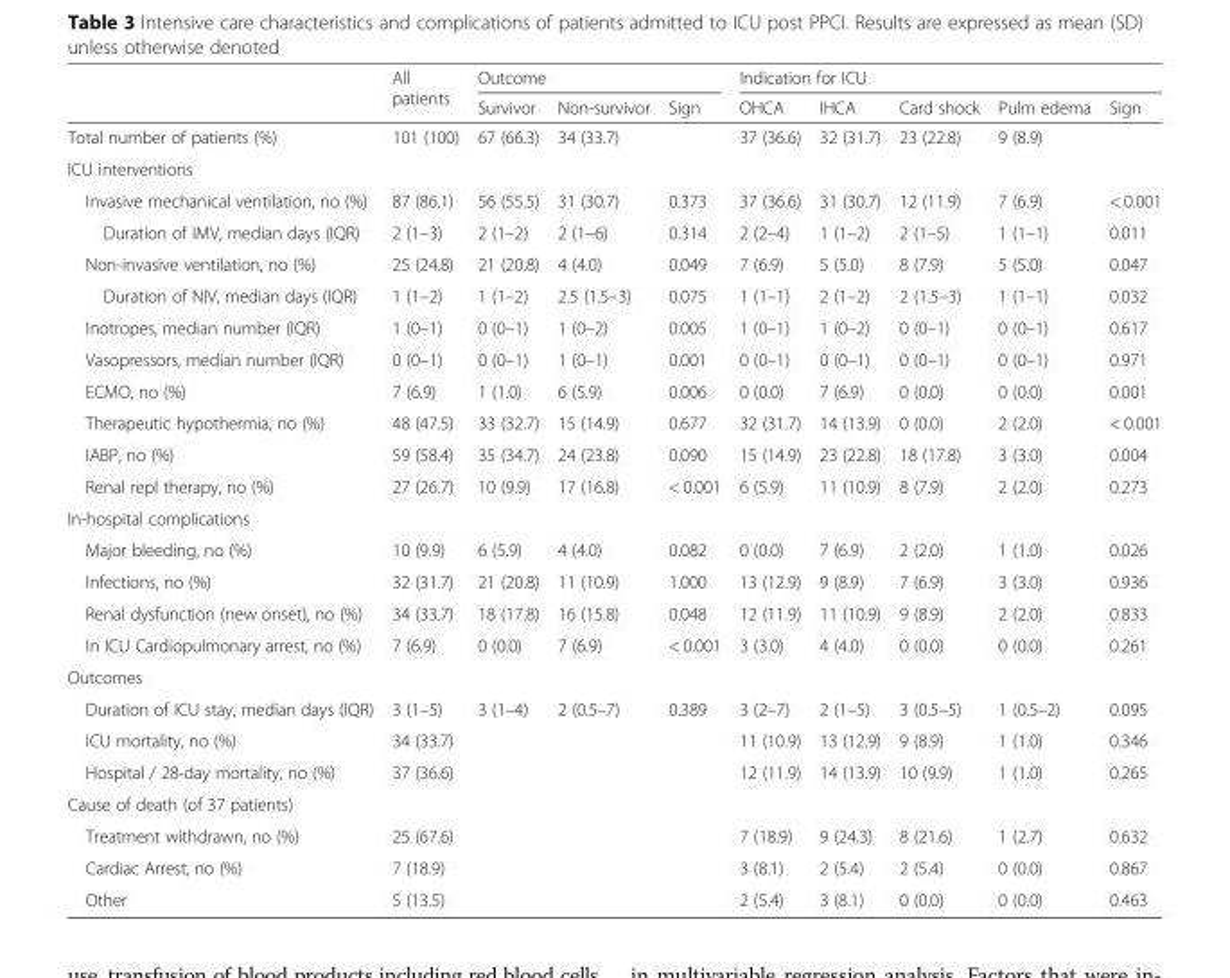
<table><thead><tr><td rowspan="2"></td><td rowspan="2">All patients</td><td colspan="3">Outcome</td><td colspan="5">Indication for ICU</td></tr><tr><td>Survivor</td><td>Non-survivor</td><td>Sign</td><td>OHCA</td><td>IHCA</td><td>Card shock</td><td>Pulm edema</td><td>Sign</td></tr></thead><tbody><tr><td>Total number of patients (%)</td><td>101 (100)</td><td>67 (66.3)</td><td>34 (33.7)</td><td></td><td>37 (36.6)</td><td>32 (31.7)</td><td>23 (22.8)</td><td>9 (8.9)</td><td></td></tr><tr><td colspan="10">ICU interventions</td></tr><tr><td>Invasive mechanical ventilation, no (%)</td><td>87 (86.1)</td><td>56 (55.5)</td><td>31 (30.7)</td><td>0.373</td><td>37 (36.6)</td><td>31 (30.7)</td><td>12 (11.9)</td><td>7 (6.9)</td><td>&lt; 0.001</td></tr><tr><td>Duration of IMV, median days (IQR)</td><td>2 (1–3)</td><td>2 (1–2)</td><td>2 (1–6)</td><td>0.314</td><td>2 (2–4)</td><td>1 (1–2)</td><td>2 (1–5)</td><td>1 (1–1)</td><td>0.011</td></tr><tr><td>Non-invasive ventilation, no (%)</td><td>25 (24.8)</td><td>21 (20.8)</td><td>4 (4.0)</td><td>0.049</td><td>7 (6.9)</td><td>5 (5.0)</td><td>8 (7.9)</td><td>5 (5.0)</td><td>0.047</td></tr><tr><td>Duration of NIV, median days (IQR)</td><td>1 (1–2)</td><td>1 (1–2)</td><td>2.5 (1.5–3)</td><td>0.075</td><td>1 (1–1)</td><td>2 (1–2)</td><td>2 (1.5–3)</td><td>1 (1–1)</td><td>0.032</td></tr><tr><td>Inotropes, median number (IQR)</td><td>1 (0–1)</td><td>0 (0–1)</td><td>1 (0–2)</td><td>0.005</td><td>1 (0–1)</td><td>1 (0–2)</td><td>0 (0–1)</td><td>0 (0–1)</td><td>0.617</td></tr><tr><td>Vasopressors, median number (IQR)</td><td>0 (0–1)</td><td>0 (0–1)</td><td>1 (0–1)</td><td>0.001</td><td>0 (0–1)</td><td>0 (0–1)</td><td>0 (0–1)</td><td>0 (0–1)</td><td>0.971</td></tr><tr><td>ECMO, no (%)</td><td>7 (6.9)</td><td>1 (1.0)</td><td>6 (5.9)</td><td>0.006</td><td>0 (0.0)</td><td>7 (6.9)</td><td>0 (0.0)</td><td>0 (0.0)</td><td>0.001</td></tr><tr><td>Therapeutic hypothermia, no (%)</td><td>48 (47.5)</td><td>33 (32.7)</td><td>15 (14.9)</td><td>0.677</td><td>32 (31.7)</td><td>14 (13.9)</td><td>0 (0.0)</td><td>2 (2.0)</td><td>&lt; 0.001</td></tr><tr><td>IABP, no (%)</td><td>59 (58.4)</td><td>35 (34.7)</td><td>24 (23.8)</td><td>0.090</td><td>15 (14.9)</td><td>23 (22.8)</td><td>18 (17.8)</td><td>3 (3.0)</td><td>0.004</td></tr><tr><td>Renal repl therapy, no (%)</td><td>27 (26.7)</td><td>10 (9.9)</td><td>17 (16.8)</td><td>&lt; 0.001</td><td>6 (5.9)</td><td>11 (10.9)</td><td>8 (7.9)</td><td>2 (2.0)</td><td>0.273</td></tr><tr><td colspan="10">In-hospital complications</td></tr><tr><td>Major bleeding, no (%)</td><td>10 (9.9)</td><td>6 (5.9)</td><td>4 (4.0)</td><td>0.082</td><td>0 (0.0)</td><td>7 (6.9)</td><td>2 (2.0)</td><td>1 (1.0)</td><td>0.026</td></tr><tr><td>Infections, no (%)</td><td>32 (31.7)</td><td>21 (20.8)</td><td>11 (10.9)</td><td>1.000</td><td>13 (12.9)</td><td>9 (8.9)</td><td>7 (6.9)</td><td>3 (3.0)</td><td>0.936</td></tr><tr><td>Renal dysfunction (new onset), no (%)</td><td>34 (33.7)</td><td>18 (17.8)</td><td>16 (15.8)</td><td>0.048</td><td>12 (11.9)</td><td>11 (10.9)</td><td>9 (8.9)</td><td>2 (2.0)</td><td>0.833</td></tr><tr><td>In ICU Cardiopulmonary arrest, no (%)</td><td>7 (6.9)</td><td>0 (0.0)</td><td>7 (6.9)</td><td>&lt; 0.001</td><td>3 (3.0)</td><td>4 (4.0)</td><td>0 (0.0)</td><td>0 (0.0)</td><td>0.261</td></tr><tr><td colspan="10">Outcomes</td></tr><tr><td>Duration of ICU stay, median days (IQR)</td><td>3 (1–5)</td><td>3 (1–4)</td><td>2 (0.5–7)</td><td>0.389</td><td>3 (2–7)</td><td>2 (1–5)</td><td>3 (0.5–5)</td><td>1 (0.5–2)</td><td>0.095</td></tr><tr><td>ICU mortality, no (%)</td><td>34 (33.7)</td><td></td><td></td><td></td><td>11 (10.9)</td><td>13 (12.9)</td><td>9 (8.9)</td><td>1 (1.0)</td><td>0.346</td></tr><tr><td>Hospital / 28-day mortality, no (%)</td><td>37 (36.6)</td><td></td><td></td><td></td><td>12 (11.9)</td><td>14 (13.9)</td><td>10 (9.9)</td><td>1 (1.0)</td><td>0.265</td></tr><tr><td colspan="10">Cause of death (of 37 patients)</td></tr><tr><td>Treatment withdrawn, no (%)</td><td>25 (67.6)</td><td></td><td></td><td></td><td>7 (18.9)</td><td>9 (24.3)</td><td>8 (21.6)</td><td>1 (2.7)</td><td>0.632</td></tr><tr><td>Cardiac Arrest, no (%)</td><td>7 (18.9)</td><td></td><td></td><td></td><td>3 (8.1)</td><td>2 (5.4)</td><td>2 (5.4)</td><td>0 (0.0)</td><td>0.867</td></tr><tr><td>Other</td><td>5 (13.5)</td><td></td><td></td><td></td><td>2 (5.4)</td><td>3 (8.1)</td><td>0 (0.0)</td><td>0 (0.0)</td><td>0.463</td></tr></tbody></table>